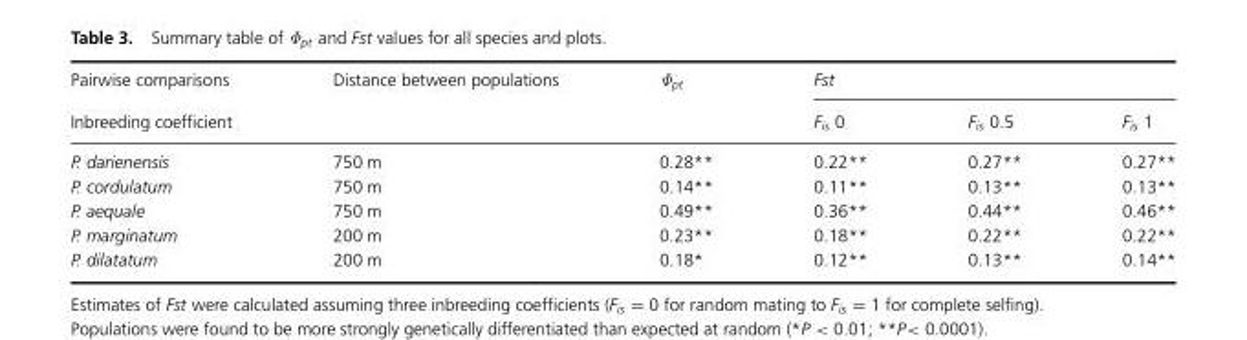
<table><thead><tr><td rowspan="2">Pairwise comparisons Inbreeding coefficient</td><td rowspan="2">Distance between populations</td><td rowspan="2">Ф<sub>pt</sub></td><td colspan="3">Fst</td></tr><tr><td>F<sub>is</sub> 0</td><td>F<sub>is</sub> 0.5</td><td>F<sub>is</sub> 1</td></tr></thead><tbody><tr><td>P. darienensis</td><td>750 m</td><td>0.28**</td><td>0.22**</td><td>0.27**</td><td>0.27**</td></tr><tr><td>P. cordulatum</td><td>750 m</td><td>0.14**</td><td>0.11**</td><td>0.13**</td><td>0.13**</td></tr><tr><td>P. aequale</td><td>750 m</td><td>0.49**</td><td>0.36**</td><td>0.44**</td><td>0.46**</td></tr><tr><td>P. marginatum</td><td>200 m</td><td>0.23**</td><td>0.18**</td><td>0.22**</td><td>0.22**</td></tr><tr><td>P. dilatatum</td><td>200 m</td><td>0.18*</td><td>0.12**</td><td>0.13**</td><td>0.14**</td></tr></tbody></table>